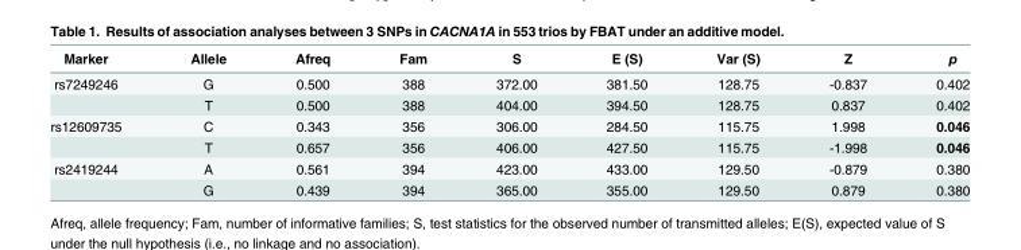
<table><thead><tr><td>Marker</td><td>Allele</td><td>Afreq</td><td>Fam</td><td>S</td><td>E (S)</td><td>Var (S)</td><td>Z</td><td>p</td></tr></thead><tbody><tr><td rowspan="2">rs7249246</td><td>G</td><td>0.500</td><td>388</td><td>372.00</td><td>381.50</td><td>128.75</td><td>-0.837</td><td>0.402</td></tr><tr><td>T</td><td>0.500</td><td>388</td><td>404.00</td><td>394.50</td><td>128.75</td><td>0.837</td><td>0.402</td></tr><tr><td rowspan="2">rs12609735</td><td>C</td><td>0.343</td><td>356</td><td>306.00</td><td>284.50</td><td>115.75</td><td>1.998</td><td>0.046</td></tr><tr><td>T</td><td>0.657</td><td>356</td><td>406.00</td><td>427.50</td><td>115.75</td><td>-1.998</td><td>0.046</td></tr><tr><td rowspan="2">rs2419244</td><td>A</td><td>0.561</td><td>394</td><td>423.00</td><td>433.00</td><td>129.50</td><td>-0.879</td><td>0.380</td></tr><tr><td>G</td><td>0.439</td><td>394</td><td>365.00</td><td>355.00</td><td>129.50</td><td>0.879</td><td>0.380</td></tr></tbody></table>